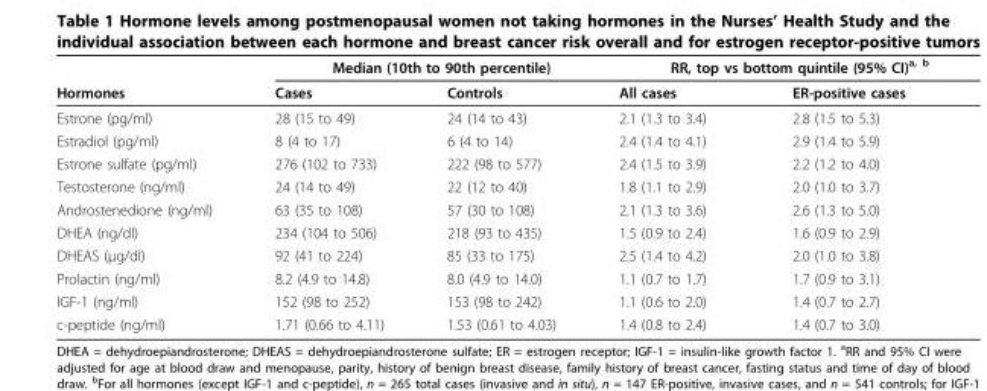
<table><thead><tr><td rowspan="2">Hormones</td><td colspan="2">Median (10th to 90th percentile)</td><td colspan="2">RR, top vs bottom quintile (95% CI)<sup>a, b</sup></td></tr><tr><td>Cases</td><td>Controls</td><td>All cases</td><td>ER-positive cases</td></tr></thead><tbody><tr><td>Estrone (pg/ml)</td><td>28 (15 to 49)</td><td>24 (14 to 43)</td><td>2.1 (1.3 to 3.4)</td><td>2.8 (1.5 to 5.3)</td></tr><tr><td>Estradiol (pg/ml)</td><td>8 (4 to 17)</td><td>6 (4 to 14)</td><td>2.4 (1.4 to 4.1)</td><td>2.9 (1.4 to 5.9)</td></tr><tr><td>Estrone sulfate (pg/ml)</td><td>276 (102 to 733)</td><td>222 (98 to 577)</td><td>2.4 (1.5 to 3.9)</td><td>2.2 (1.2 to 4.0)</td></tr><tr><td>Testosterone (ng/ml)</td><td>24 (14 to 49)</td><td>22 (12 to 40)</td><td>1.8 (1.1 to 2.9)</td><td>2.0 (1.0 to 3.7)</td></tr><tr><td>Androstenedione (ng/ml)</td><td>63 (35 to 108)</td><td>57 (30 to 108)</td><td>2.1 (1.3 to 3.6)</td><td>2.6 (1.3 to 5.0)</td></tr><tr><td>DHEA (ng/dl)</td><td>234 (104 to 506)</td><td>218 (93 to 435)</td><td>1.5 (0.9 to 2.4)</td><td>1.6 (0.9 to 2.9)</td></tr><tr><td>DHEAS (μg/dl)</td><td>92 (41 to 224)</td><td>85 (33 to 175)</td><td>2.5 (1.4 to 4.2)</td><td>2.0 (1.0 to 3.8)</td></tr><tr><td>Prolactin (ng/ml)</td><td>8.2 (4.9 to 14.8)</td><td>8.0 (4.9 to 14.0)</td><td>1.1 (0.7 to 1.7)</td><td>1.7 (0.9 to 3.1)</td></tr><tr><td>IGF-1 (ng/ml)</td><td>152 (98 to 252)</td><td>153 (98 to 242)</td><td>1.1 (0.6 to 2.0)</td><td>1.4 (0.7 to 2.7)</td></tr><tr><td>c-peptide (ng/ml)</td><td>1.71 (0.66 to 4.11)</td><td>1.53 (0.61 to 4.03)</td><td>1.4 (0.8 to 2.4)</td><td>1.4 (0.7 to 3.0)</td></tr></tbody></table>